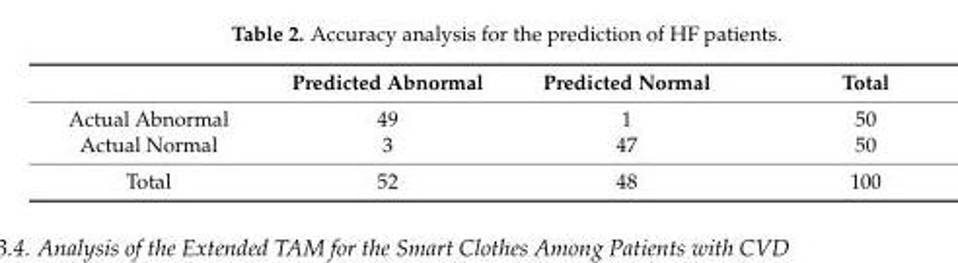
<table><thead><tr><td></td><td>Predicted Abnormal</td><td>Predicted Normal</td><td>Total</td></tr></thead><tbody><tr><td>Actual Abnormal</td><td>49</td><td>1</td><td>50</td></tr><tr><td>Actual Normal</td><td>3</td><td>47</td><td>50</td></tr><tr><td>Total</td><td>52</td><td>48</td><td>100</td></tr></tbody></table>